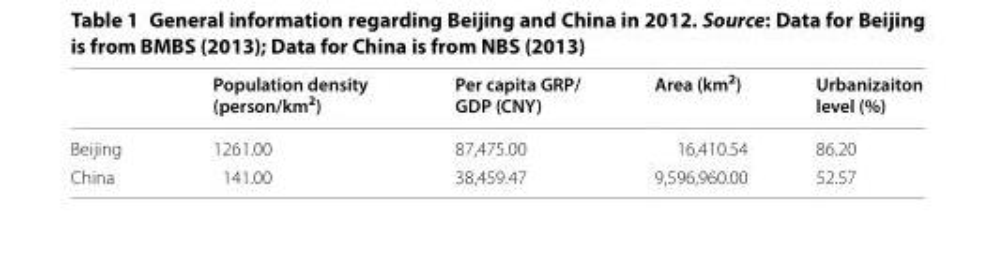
<table><thead><tr><td></td><td>Population density (person/km<sup>2</sup>)</td><td>Per capita GRP/ GDP (CNY)</td><td>Area (km<sup>2</sup>)</td><td>Urbanizaiton level (%)</td></tr></thead><tbody><tr><td>Beijing</td><td>1261.00</td><td>87,475.00</td><td>16,410.54</td><td>86.20</td></tr><tr><td>China</td><td>141.00</td><td>38,459.47</td><td>9,596,960.00</td><td>52.57</td></tr></tbody></table>